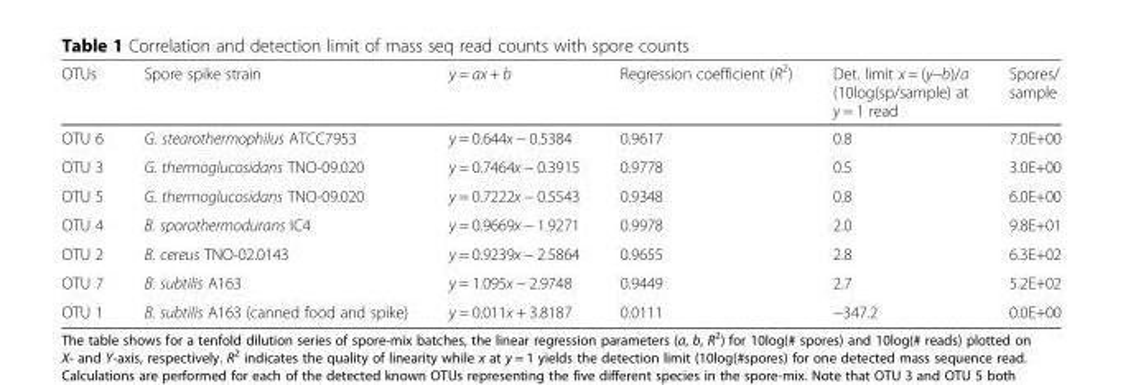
<table><thead><tr><td>OTUs</td><td>Spore spike strain</td><td>y = ax + b</td><td>Regression coefficient (R<sup>2</sup>)</td><td>Det. limit x = (y−b)/a (10log(sp/sample) at y = 1 read</td><td>Spores/ sample</td></tr></thead><tbody><tr><td>OTU 6</td><td>G. stearothermophilus ATCC7953</td><td>y = 0.644x − 0.5384</td><td>0.9617</td><td>0.8</td><td>7.0E+00</td></tr><tr><td>OTU 3</td><td>G. thermoglucosidans TNO-09.020</td><td>y = 0.7464x − 0.3915</td><td>0.9778</td><td>0.5</td><td>3.0E+00</td></tr><tr><td>OTU 5</td><td>G. thermoglucosidans TNO-09.020</td><td>y = 0.7222x − 0.5543</td><td>0.9348</td><td>0.8</td><td>6.0E+00</td></tr><tr><td>OTU 4</td><td>B. sporothermodurans IC4</td><td>y = 0.9669x − 1.9271</td><td>0.9978</td><td>2.0</td><td>9.8E+01</td></tr><tr><td>OTU 2</td><td>B. cereus TNO-02.0143</td><td>y = 0.9239x − 2.5864</td><td>0.9655</td><td>2.8</td><td>6.3E+02</td></tr><tr><td>OTU 7</td><td>B. subtilis A163</td><td>y = 1.095x − 2.9748</td><td>0.9449</td><td>2.7</td><td>5.2E+02</td></tr><tr><td>OTU 1</td><td>B. subtilis A163 (canned food and spike)</td><td>y = 0.011x + 3.8187</td><td>0.0111</td><td>−347.2</td><td>0.0E+00</td></tr></tbody></table>